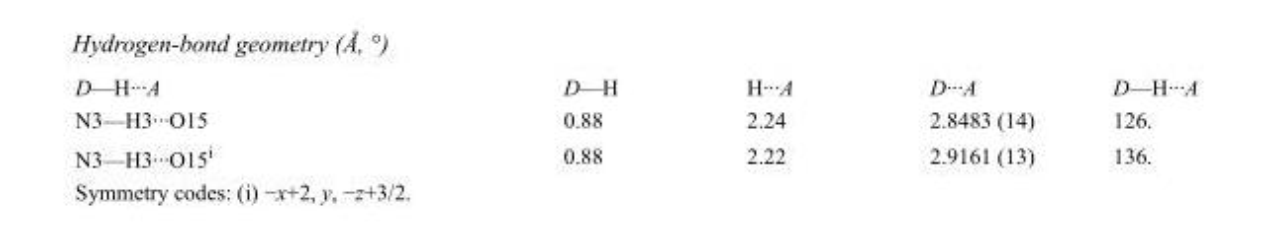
<table><tbody><tr><td>D—H···A</td><td>D—H</td><td>H···A</td><td>D···A</td><td>D—H···A</td></tr><tr><td>N3—H3···O15</td><td>0.88</td><td>2.24</td><td>2.8483 (14)</td><td>126.</td></tr><tr><td>N3—H3···O15<sup>i</sup></td><td>0.88</td><td>2.22</td><td>2.9161 (13)</td><td>136.</td></tr></tbody></table>